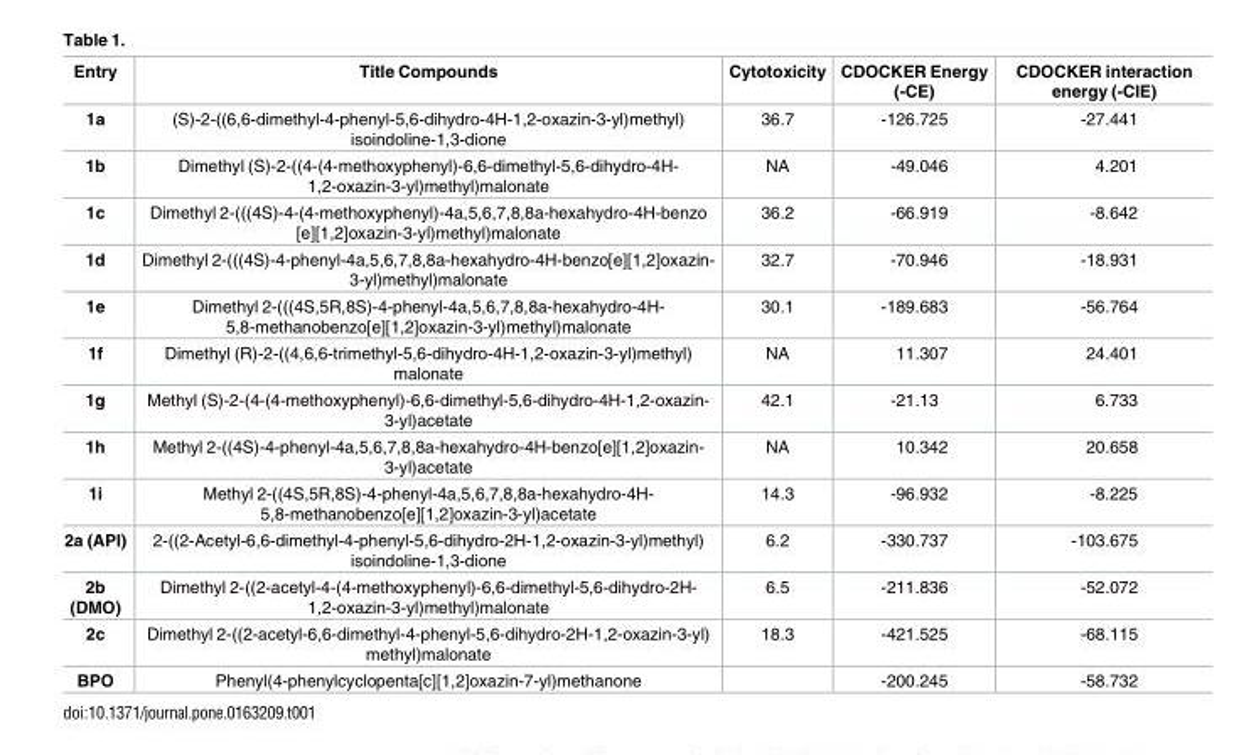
<table><thead><tr><td>Entry</td><td>Title Compounds</td><td>Cytotoxicity</td><td>CDOCKER Energy (-CE)</td><td>CDOCKER interaction energy (-CIE)</td></tr></thead><tbody><tr><td>1a</td><td>(S)-2-((6,6-dimethyl-4-phenyl-5,6-dihydro-4H-1,2-oxazin-3-yl)methyl) isoindoline-1,3-dione</td><td>36.7</td><td>-126.725</td><td>-27.441</td></tr><tr><td>1b</td><td>Dimethyl (S)-2-((4-(4-methoxyphenyl)-6,6-dimethyl-5,6-dihydro-4H- 1,2-oxazin-3-yl)methyl)malonate</td><td>NA</td><td>-49.046</td><td>4.201</td></tr><tr><td>1c</td><td>Dimethyl 2-(((4S)-4-(4-methoxyphenyl)-4a,5,6,7,8,8a-hexahydro-4H-benzo [e][1,2]oxazin-3-yl)methyl)malonate</td><td>36.2</td><td>-66.919</td><td>-8.642</td></tr><tr><td>1d</td><td>Dimethyl 2-(((4S)-4-phenyl-4a,5,6,7,8,8a-hexahydro-4H-benzo[e][1,2]oxazin- 3-yl)methyl)malonate</td><td>32.7</td><td>-70.946</td><td>-18.931</td></tr><tr><td>1e</td><td>Dimethyl 2-(((4S,5R,8S)-4-phenyl-4a,5,6,7,8,8a-hexahydro-4H- 5,8-methanobenzo[e][1,2]oxazin-3-yl)methyl)malonate</td><td>30.1</td><td>-189.683</td><td>-56.764</td></tr><tr><td>1f</td><td>Dimethyl (R)-2-((4,6,6-trimethyl-5,6-dihydro-4H-1,2-oxazin-3-yl)methyl) malonate</td><td>NA</td><td>11.307</td><td>24.401</td></tr><tr><td>1g</td><td>Methyl (S)-2-(4-(4-methoxyphenyl)-6,6-dimethyl-5,6-dihydro-4H-1,2-oxazin- 3-yl)acetate</td><td>42.1</td><td>-21.13</td><td>6.733</td></tr><tr><td>1h</td><td>Methyl 2-((4S)-4-phenyl-4a,5,6,7,8,8a-hexahydro-4H-benzo[e][1,2]oxazin- 3-yl)acetate</td><td>NA</td><td>10.342</td><td>20.658</td></tr><tr><td>1i</td><td>Methyl 2-((4S,5R,8S)-4-phenyl-4a,5,6,7,8,8a-hexahydro-4H- 5,8-methanobenzo[e][1,2]oxazin-3-yl)acetate</td><td>14.3</td><td>-96.932</td><td>-8.225</td></tr><tr><td>2a (API)</td><td>2-((2-Acetyl-6,6-dimethyl-4-phenyl-5,6-dihydro-2H-1,2-oxazin-3-yl)methyl) isoindoline-1,3-dione</td><td>6.2</td><td>-330.737</td><td>-103.675</td></tr><tr><td>2b (DMO)</td><td>Dimethyl 2-((2-acetyl-4-(4-methoxyphenyl)-6,6-dimethyl-5,6-dihydro-2H- 1,2-oxazin-3-yl)methyl)malonate</td><td>6.5</td><td>-211.836</td><td>-52.072</td></tr><tr><td>2c</td><td>Dimethyl 2-((2-acetyl-6,6-dimethyl-4-phenyl-5,6-dihydro-2H-1,2-oxazin-3-yl) methyl)malonate</td><td>18.3</td><td>-421.525</td><td>-68.115</td></tr><tr><td>BPO</td><td>Phenyl(4-phenylcyclopenta[c][1,2]oxazin-7-yl)methanone</td><td></td><td>-200.245</td><td>-58.732</td></tr></tbody></table>